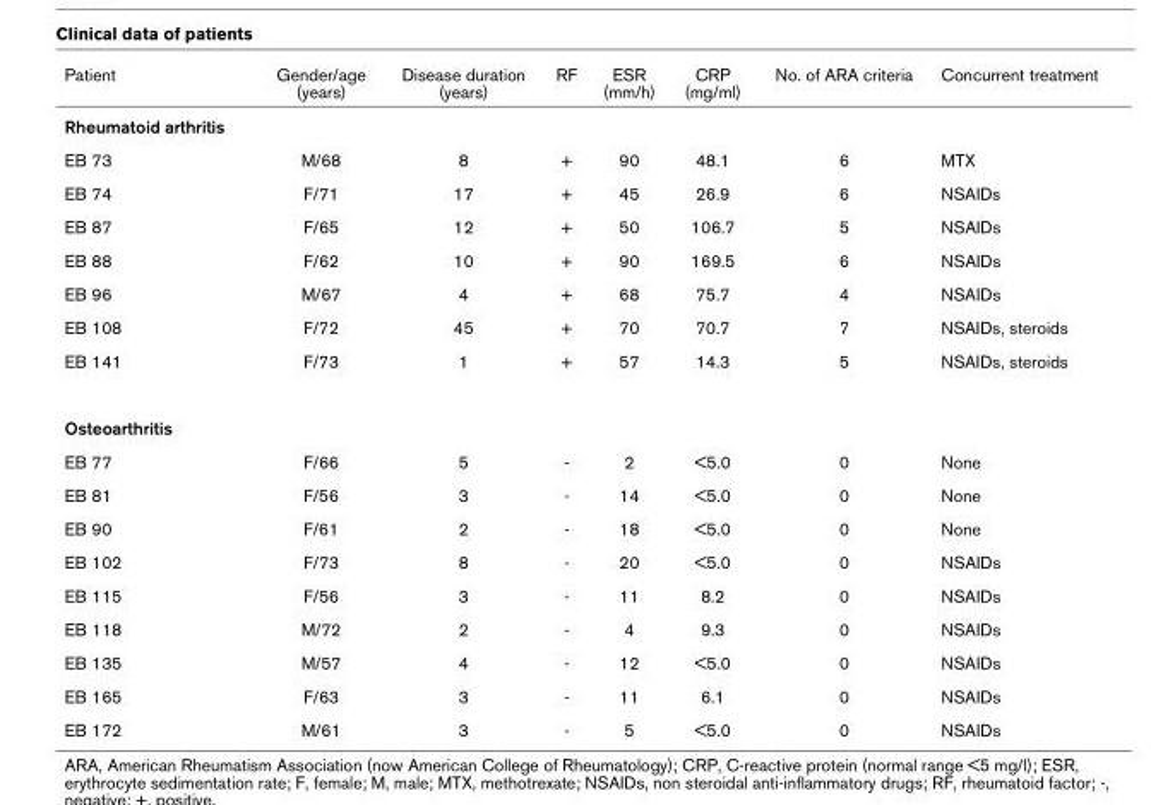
<table><thead><tr><td>Patient</td><td>Gender/age (years)</td><td>Disease duration (years)</td><td>RF</td><td>ESR (mm/h)</td><td>CRP (mg/ml)</td><td>No. of ARA criteria</td><td>Concurrent treatment</td></tr></thead><tbody><tr><td colspan="8">Rheumatoid arthritis</td></tr><tr><td>EB 73</td><td>M/68</td><td>8</td><td>+</td><td>90</td><td>48.1</td><td>6</td><td>MTX</td></tr><tr><td>EB 74</td><td>F/71</td><td>17</td><td>+</td><td>45</td><td>26.9</td><td>6</td><td>NSAIDs</td></tr><tr><td>EB 87</td><td>F/65</td><td>12</td><td>+</td><td>50</td><td>106.7</td><td>5</td><td>NSAIDs</td></tr><tr><td>EB 88</td><td>F/62</td><td>10</td><td>+</td><td>90</td><td>169.5</td><td>6</td><td>NSAIDs</td></tr><tr><td>EB 96</td><td>M/67</td><td>4</td><td>+</td><td>68</td><td>75.7</td><td>4</td><td>NSAIDs</td></tr><tr><td>EB 108</td><td>F/72</td><td>45</td><td>+</td><td>70</td><td>70.7</td><td>7</td><td>NSAIDs, steroids</td></tr><tr><td>EB 141</td><td>F/73</td><td>1</td><td>+</td><td>57</td><td>14.3</td><td>5</td><td>NSAIDs, steroids</td></tr><tr><td colspan="8">Osteoarthritis</td></tr><tr><td>EB 77</td><td>F/66</td><td>5</td><td>-</td><td>2</td><td>&lt;5.0</td><td>0</td><td>None</td></tr><tr><td>EB 81</td><td>F/56</td><td>3</td><td>-</td><td>14</td><td>&lt;5.0</td><td>0</td><td>None</td></tr><tr><td>EB 90</td><td>F/61</td><td>2</td><td>-</td><td>18</td><td>&lt;5.0</td><td>0</td><td>None</td></tr><tr><td>EB 102</td><td>F/73</td><td>8</td><td>-</td><td>20</td><td>&lt;5.0</td><td>0</td><td>NSAIDs</td></tr><tr><td>EB 115</td><td>F/56</td><td>3</td><td>-</td><td>11</td><td>8.2</td><td>0</td><td>NSAIDs</td></tr><tr><td>EB 118</td><td>M/72</td><td>2</td><td>-</td><td>4</td><td>9.3</td><td>0</td><td>NSAIDs</td></tr><tr><td>EB 135</td><td>M/57</td><td>4</td><td>-</td><td>12</td><td>&lt;5.0</td><td>0</td><td>NSAIDs</td></tr><tr><td>EB 165</td><td>F/63</td><td>3</td><td>-</td><td>11</td><td>6.1</td><td>0</td><td>NSAIDs</td></tr><tr><td>EB 172</td><td>M/61</td><td>3</td><td>-</td><td>5</td><td>&lt;5.0</td><td>0</td><td>NSAIDs</td></tr></tbody></table>